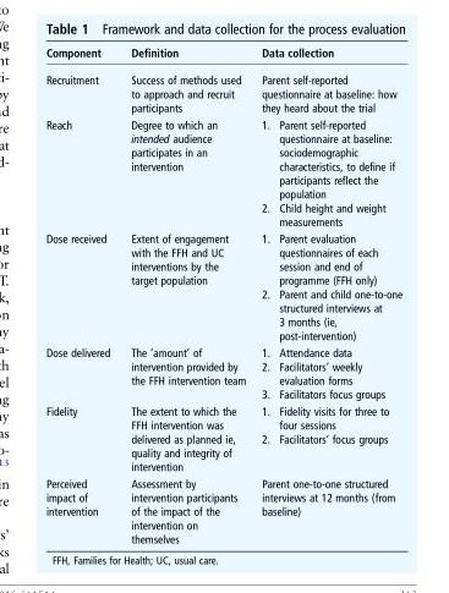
<table><thead><tr><td>Component</td><td>Definition</td><td>Data collection</td></tr></thead><tbody><tr><td>Recruitment</td><td>Success of methods used to approach and recruit participants</td><td>Parent self-reported questionnaire at baseline: how they heard about the trial</td></tr><tr><td>Reach</td><td>Degree to which an intended audience participates in an intervention</td><td>1. Parent self-reported questionnaire at baseline: sociodemographic characteristics, to define if participants reflect the population 2. Child height and weight measurements</td></tr><tr><td>Dose received</td><td>Extent of engagement with the FFH and UC interventions by the target population</td><td>1. Parent evaluation questionnaires of each session and end of programme (FFH only) 2. Parent and child one-to-one structured interviews at 3 months (ie, post-intervention)</td></tr><tr><td>Dose delivered</td><td>The ‘amount’ of intervention provided by the FFH intervention team</td><td>1. Attendance data 2. Facilitators’ weekly evaluation forms 3. Facilitators focus groups</td></tr><tr><td>Fidelity</td><td>The extent to which the FFH intervention was delivered as planned ie, quality and integrity of intervention</td><td>1. Fidelity visits for three to four sessions 2. Facilitators’ focus groups</td></tr><tr><td>Perceived impact of intervention</td><td>Assessment by intervention participants of the impact of the intervention on themselves</td><td>Parent one-to-one structured interviews at 12 months (from baseline)</td></tr></tbody></table>